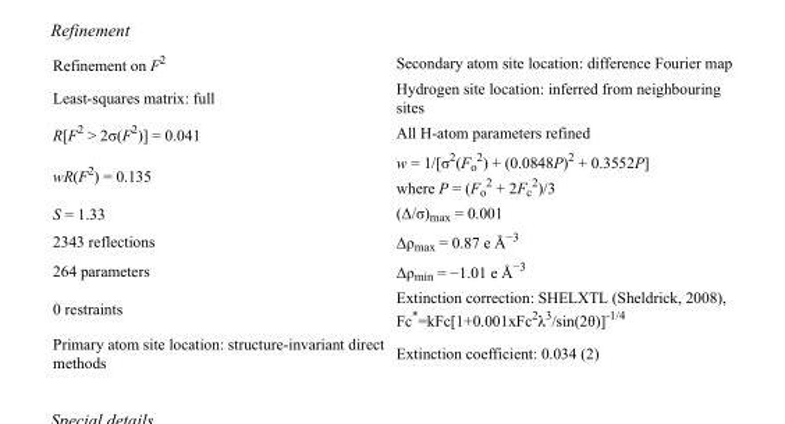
<table><tbody><tr><td>Refinement on F<sup>2</sup></td><td>Secondary atom site location: difference Fourier map</td></tr><tr><td>Least-squares matrix: full</td><td>Hydrogen site location: inferred from neighbouring sites</td></tr><tr><td>R[F<sup>2</sup> &gt; 2σ(F<sup>2</sup>)] = 0.041</td><td>All H-atom parameters refined</td></tr><tr><td>wR(F<sup>2</sup>) = 0.135</td><td>w = 1/[σ<sup>2</sup>(F<sub>o</sub> <sup>2</sup>) + (0.0848P)<sup>2</sup> + 0.3552P] where P = (F<sub>o</sub> <sup>2</sup> + 2F<sub>c</sub> <sup>2</sup>)/3</td></tr><tr><td>S = 1.33</td><td>(Δ/σ)<sub>max</sub> = 0.001</td></tr><tr><td>2343 reflections</td><td>Δρ<sub>max</sub> = 0.87 e Å<sup>−3</sup></td></tr><tr><td>264 parameters</td><td>Δρ<sub>min</sub> = −1.01 e Å<sup>−3</sup></td></tr><tr><td>0 restraints</td><td>Extinction correction: SHELXTL (Sheldrick, 2008), Fc*=kFc[1+0.001xFc<sup>2</sup>λ<sup>3</sup>/sin(2θ)]<sup>-1/4</sup></td></tr><tr><td>Primary atom site location: structure-invariant direct methods</td><td>Extinction coefficient: 0.034 (2)</td></tr></tbody></table>